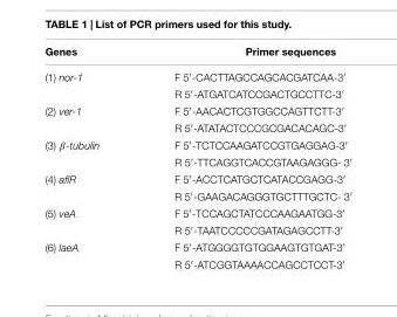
<table><thead><tr><td>Genes</td><td>Primer sequences</td></tr></thead><tbody><tr><td rowspan="2">(1) nor-1</td><td>F 5′-CACTTAGCCAGCACGATCAA-3′</td></tr><tr><td>R 5′-ATGATCATCCGACTGCCTTC-3′</td></tr><tr><td rowspan="2">(2) ver-1</td><td>F 5′-AACACTCGTGGCCAGTTCTT-3′</td></tr><tr><td>R 5′-ATATACTCCCGCGACACAGC-3′</td></tr><tr><td rowspan="2">(3) β-tubulin</td><td>F 5′-TCTCCAAGATCCGTGAGGAG-3′</td></tr><tr><td>R 5′-TTCAGGTCACCGTAAGAGGG- 3′</td></tr><tr><td rowspan="2">(4) aflR</td><td>F 5′-ACCTCATGCTCATACCGAGG-3′</td></tr><tr><td>R 5′-GAAGACAGGGTGCTTTGCTC- 3′</td></tr><tr><td rowspan="2">(5) veA</td><td>F 5′-TCCAGCTATCCCAAGAATGG-3′</td></tr><tr><td>R 5′-TAATCCCCCGATAGAGCCTT-3′</td></tr><tr><td rowspan="2">(6) laeA</td><td>F 5′-ATGGGGTGTGGAAGTGTGAT-3′</td></tr><tr><td>R 5′-ATCGGTAAAACCAGCCTCCT-3′</td></tr></tbody></table>